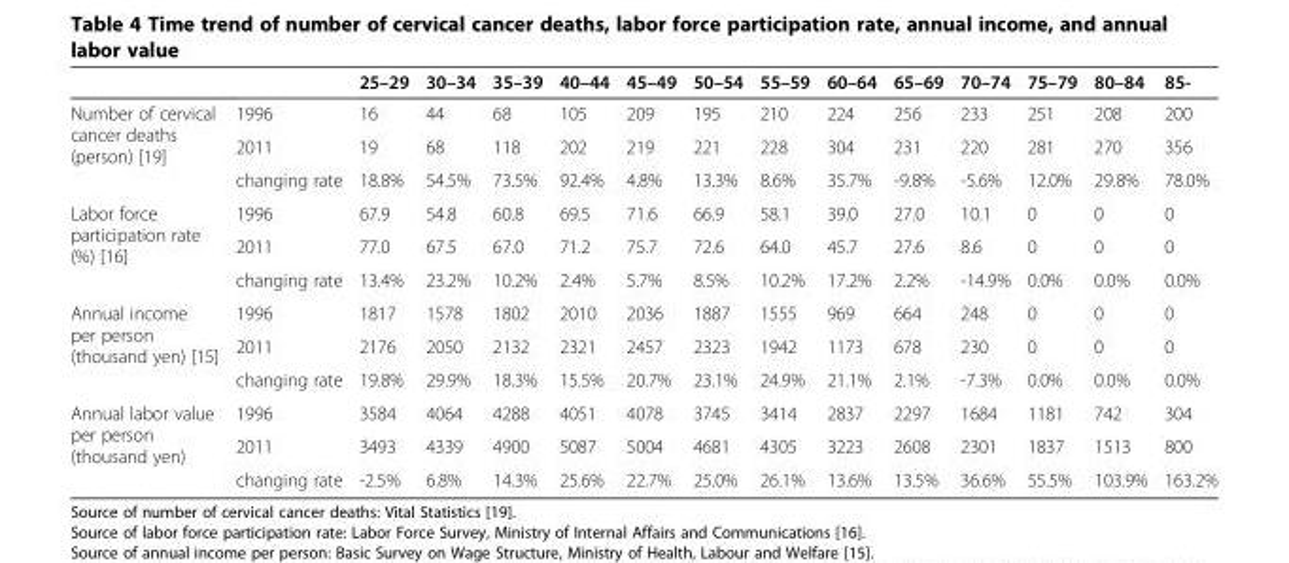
<table><thead><tr><td></td><td></td><td>25–29</td><td>30–34</td><td>35–39</td><td>40–44</td><td>45–49</td><td>50–54</td><td>55–59</td><td>60–64</td><td>65–69</td><td>70–74</td><td>75–79</td><td>80–84</td><td>85-</td></tr></thead><tbody><tr><td rowspan="3">Number of cervical cancer deaths (person) [19]</td><td>1996</td><td>16</td><td>44</td><td>68</td><td>105</td><td>209</td><td>195</td><td>210</td><td>224</td><td>256</td><td>233</td><td>251</td><td>208</td><td>200</td></tr><tr><td>2011</td><td>19</td><td>68</td><td>118</td><td>202</td><td>219</td><td>221</td><td>228</td><td>304</td><td>231</td><td>220</td><td>281</td><td>270</td><td>356</td></tr><tr><td>changing rate</td><td>18.8%</td><td>54.5%</td><td>73.5%</td><td>92.4%</td><td>4.8%</td><td>13.3%</td><td>8.6%</td><td>35.7%</td><td>-9.8%</td><td>-5.6%</td><td>12.0%</td><td>29.8%</td><td>78.0%</td></tr><tr><td rowspan="3">Labor force participation rate (%) [16]</td><td>1996</td><td>67.9</td><td>54.8</td><td>60.8</td><td>69.5</td><td>71.6</td><td>66.9</td><td>58.1</td><td>39.0</td><td>27.0</td><td>10.1</td><td>0</td><td>0</td><td>0</td></tr><tr><td>2011</td><td>77.0</td><td>67.5</td><td>67.0</td><td>71.2</td><td>75.7</td><td>72.6</td><td>64.0</td><td>45.7</td><td>27.6</td><td>8.6</td><td>0</td><td>0</td><td>0</td></tr><tr><td>changing rate</td><td>13.4%</td><td>23.2%</td><td>10.2%</td><td>2.4%</td><td>5.7%</td><td>8.5%</td><td>10.2%</td><td>17.2%</td><td>2.2%</td><td>-14.9%</td><td>0.0%</td><td>0.0%</td><td>0.0%</td></tr><tr><td rowspan="3">Annual income per person (thousand yen) [15]</td><td>1996</td><td>1817</td><td>1578</td><td>1802</td><td>2010</td><td>2036</td><td>1887</td><td>1555</td><td>969</td><td>664</td><td>248</td><td>0</td><td>0</td><td>0</td></tr><tr><td>2011</td><td>2176</td><td>2050</td><td>2132</td><td>2321</td><td>2457</td><td>2323</td><td>1942</td><td>1173</td><td>678</td><td>230</td><td>0</td><td>0</td><td>0</td></tr><tr><td>changing rate</td><td>19.8%</td><td>29.9%</td><td>18.3%</td><td>15.5%</td><td>20.7%</td><td>23.1%</td><td>24.9%</td><td>21.1%</td><td>2.1%</td><td>-7.3%</td><td>0.0%</td><td>0.0%</td><td>0.0%</td></tr><tr><td rowspan="3">Annual labor value per person (thousand yen)</td><td>1996</td><td>3584</td><td>4064</td><td>4288</td><td>4051</td><td>4078</td><td>3745</td><td>3414</td><td>2837</td><td>2297</td><td>1684</td><td>1181</td><td>742</td><td>304</td></tr><tr><td>2011</td><td>3493</td><td>4339</td><td>4900</td><td>5087</td><td>5004</td><td>4681</td><td>4305</td><td>3223</td><td>2608</td><td>2301</td><td>1837</td><td>1513</td><td>800</td></tr><tr><td>changing rate</td><td>-2.5%</td><td>6.8%</td><td>14.3%</td><td>25.6%</td><td>22.7%</td><td>25.0%</td><td>26.1%</td><td>13.6%</td><td>13.5%</td><td>36.6%</td><td>55.5%</td><td>103.9%</td><td>163.2%</td></tr></tbody></table>